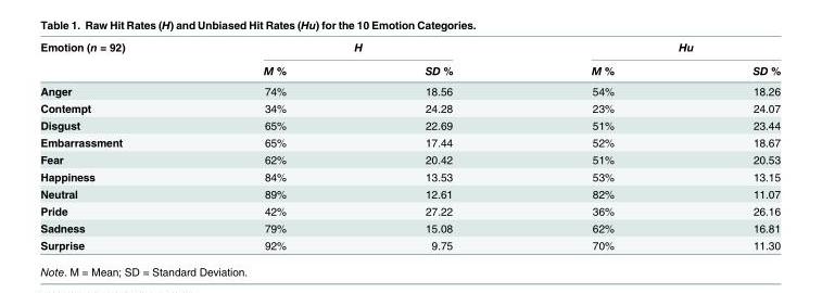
<table><thead><tr><td rowspan="2">Emotion (n = 92)</td><td colspan="2">H</td><td colspan="2">Hu</td></tr><tr><td>M %</td><td>SD %</td><td>M %</td><td>SD %</td></tr></thead><tbody><tr><td>Anger</td><td>74%</td><td>18.56</td><td>54%</td><td>18.26</td></tr><tr><td>Contempt</td><td>34%</td><td>24.28</td><td>23%</td><td>24.07</td></tr><tr><td>Disgust</td><td>65%</td><td>22.69</td><td>51%</td><td>23.44</td></tr><tr><td>Embarrassment</td><td>65%</td><td>17.44</td><td>52%</td><td>18.67</td></tr><tr><td>Fear</td><td>62%</td><td>20.42</td><td>51%</td><td>20.53</td></tr><tr><td>Happiness</td><td>84%</td><td>13.53</td><td>53%</td><td>13.15</td></tr><tr><td>Neutral</td><td>89%</td><td>12.61</td><td>82%</td><td>11.07</td></tr><tr><td>Pride</td><td>42%</td><td>27.22</td><td>36%</td><td>26.16</td></tr><tr><td>Sadness</td><td>79%</td><td>15.08</td><td>62%</td><td>16.81</td></tr><tr><td>Surprise</td><td>92%</td><td>9.75</td><td>70%</td><td>11.30</td></tr></tbody></table>